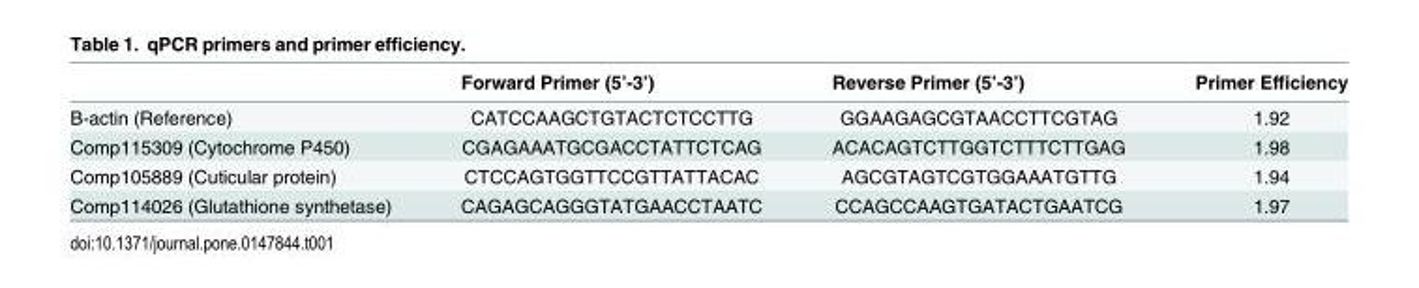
<table><thead><tr><td></td><td>Forward Primer (5’-3’)</td><td>Reverse Primer (5’-3’)</td><td>Primer Efficiency</td></tr></thead><tbody><tr><td>B-actin (Reference)</td><td>CATCCAAGCTGTACTCTCCTTG</td><td>GGAAGAGCGTAACCTTCGTAG</td><td>1.92</td></tr><tr><td>Comp115309 (Cytochrome P450)</td><td>CGAGAAATGCGACCTATTCTCAG</td><td>ACACAGTCTTGGTCTTTCTTGAG</td><td>1.98</td></tr><tr><td>Comp105889 (Cuticular protein)</td><td>CTCCAGTGGTTCCGTTATTACAC</td><td>AGCGTAGTCGTGGAAATGTTG</td><td>1.94</td></tr><tr><td>Comp114026 (Glutathione synthetase)</td><td>CAGAGCAGGGTATGAACCTAATC</td><td>CCAGCCAAGTGATACTGAATCG</td><td>1.97</td></tr></tbody></table>